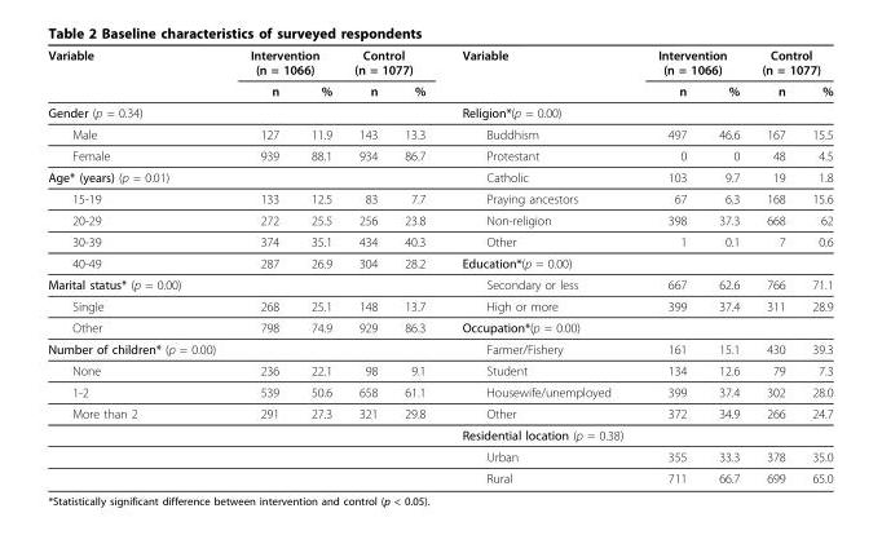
<table><thead><tr><td rowspan="2">Variable</td><td colspan="2">Intervention (n = 1066)</td><td colspan="2">Control (n = 1077)</td><td rowspan="2">Variable</td><td colspan="2">Intervention (n = 1066)</td><td colspan="2">Control (n = 1077)</td></tr><tr><td>n</td><td>%</td><td>n</td><td>%</td><td>n</td><td>%</td><td>n</td><td>%</td></tr></thead><tbody><tr><td>Gender (p = 0.34)</td><td></td><td></td><td></td><td></td><td>Religion*(p = 0.00)</td><td></td><td></td><td></td><td></td></tr><tr><td>Male</td><td>127</td><td>11.9</td><td>143</td><td>13.3</td><td>Buddhism</td><td>497</td><td>46.6</td><td>167</td><td>15.5</td></tr><tr><td>Female</td><td>939</td><td>88.1</td><td>934</td><td>86.7</td><td>Protestant</td><td>0</td><td>0</td><td>48</td><td>4.5</td></tr><tr><td>Age* (years) (p = 0.01)</td><td></td><td></td><td></td><td></td><td>Catholic</td><td>103</td><td>9.7</td><td>19</td><td>1.8</td></tr><tr><td>15-19</td><td>133</td><td>12.5</td><td>83</td><td>7.7</td><td>Praying ancestors</td><td>67</td><td>6.3</td><td>168</td><td>15.6</td></tr><tr><td>20-29</td><td>272</td><td>25.5</td><td>256</td><td>23.8</td><td>Non-religion</td><td>398</td><td>37.3</td><td>668</td><td>62</td></tr><tr><td>30-39</td><td>374</td><td>35.1</td><td>434</td><td>40.3</td><td>Other</td><td>1</td><td>0.1</td><td>7</td><td>0.6</td></tr><tr><td>40-49</td><td>287</td><td>26.9</td><td>304</td><td>28.2</td><td>Education*(p = 0.00)</td><td></td><td></td><td></td><td></td></tr><tr><td>Marital status* (p = 0.00)</td><td></td><td></td><td></td><td></td><td>Secondary or less</td><td>667</td><td>62.6</td><td>766</td><td>71.1</td></tr><tr><td>Single</td><td>268</td><td>25.1</td><td>148</td><td>13.7</td><td>High or more</td><td>399</td><td>37.4</td><td>311</td><td>28.9</td></tr><tr><td>Other</td><td>798</td><td>74.9</td><td>929</td><td>86.3</td><td>Occupation*(p = 0.00)</td><td></td><td></td><td></td><td></td></tr><tr><td>Number of children* (p = 0.00)</td><td></td><td></td><td></td><td></td><td>Farmer/Fishery</td><td>161</td><td>15.1</td><td>430</td><td>39.3</td></tr><tr><td>None</td><td>236</td><td>22.1</td><td>98</td><td>9.1</td><td>Student</td><td>134</td><td>12.6</td><td>79</td><td>7.3</td></tr><tr><td>1-2</td><td>539</td><td>50.6</td><td>658</td><td>61.1</td><td>Housewife/unemployed</td><td>399</td><td>37.4</td><td>302</td><td>28.0</td></tr><tr><td rowspan="4">More than 2</td><td>291</td><td>27.3</td><td>321</td><td>29.8</td><td>Other</td><td>372</td><td>34.9</td><td>266</td><td>24.7</td></tr><tr><td></td><td></td><td></td><td></td><td>Residential location (p = 0.38)</td><td></td><td></td><td></td><td></td></tr><tr><td></td><td></td><td></td><td></td><td>Urban</td><td>355</td><td>33.3</td><td>378</td><td>35.0</td></tr><tr><td></td><td></td><td></td><td></td><td>Rural</td><td>711</td><td>66.7</td><td>699</td><td>65.0</td></tr></tbody></table>